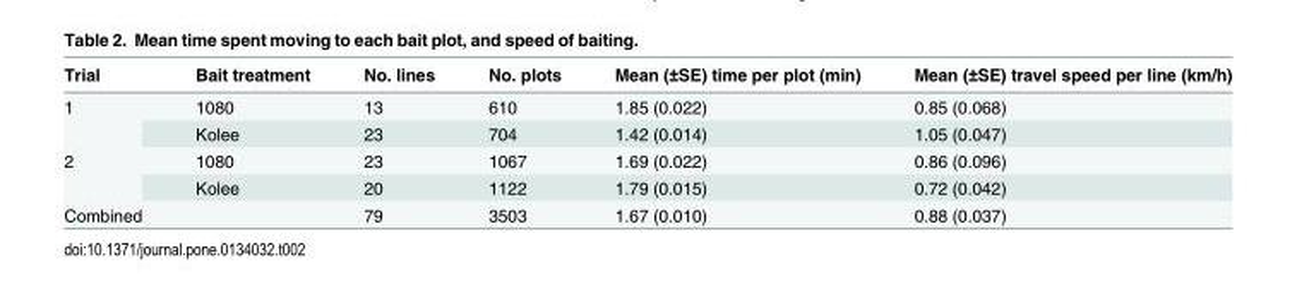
<table><thead><tr><td>Trial</td><td>Bait treatment</td><td>No. lines</td><td>No. plots</td><td>Mean (±SE) time per plot (min)</td><td>Mean (±SE) travel speed per line (km/h)</td></tr></thead><tbody><tr><td rowspan="2">1</td><td>1080</td><td>13</td><td>610</td><td>1.85 (0.022)</td><td>0.85 (0.068)</td></tr><tr><td>Kolee</td><td>23</td><td>704</td><td>1.42 (0.014)</td><td>1.05 (0.047)</td></tr><tr><td rowspan="2">2</td><td>1080</td><td>23</td><td>1067</td><td>1.69 (0.022)</td><td>0.86 (0.096)</td></tr><tr><td>Kolee</td><td>20</td><td>1122</td><td>1.79 (0.015)</td><td>0.72 (0.042)</td></tr><tr><td>Combined</td><td></td><td>79</td><td>3503</td><td>1.67 (0.010)</td><td>0.88 (0.037)</td></tr></tbody></table>